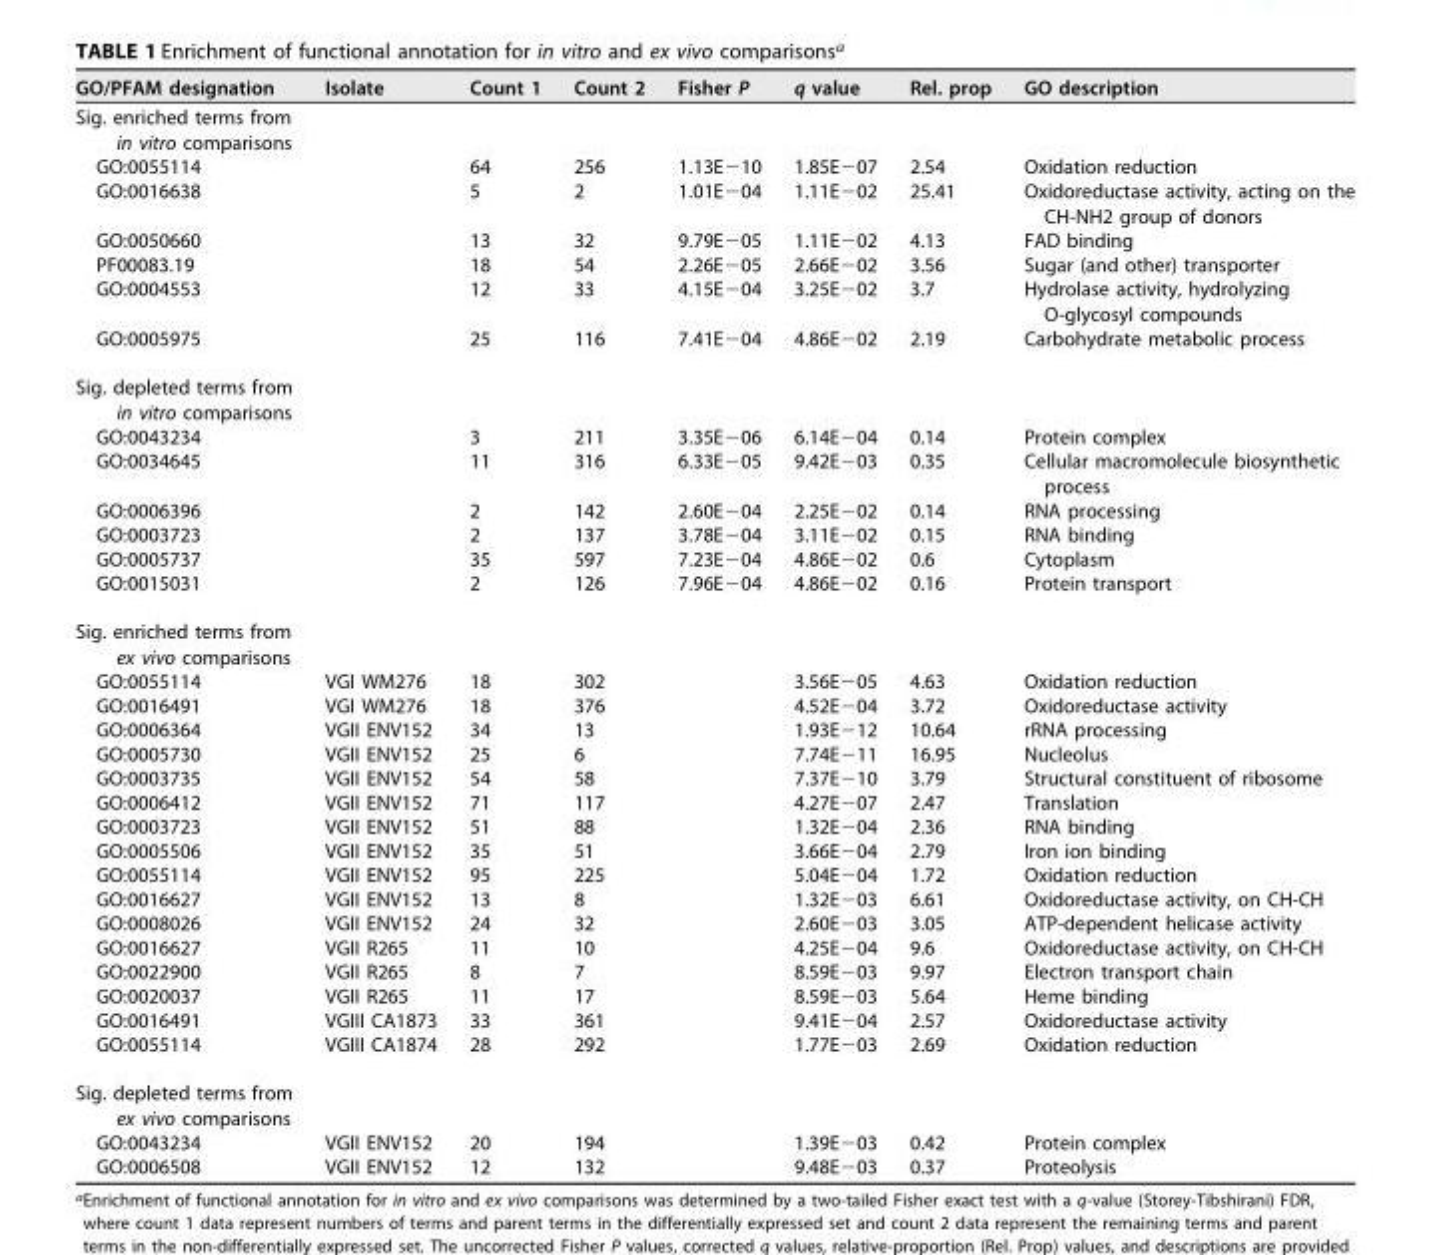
<table><thead><tr><td>GO/PFAM designation</td><td>Isolate</td><td>Count 1</td><td>Count 2</td><td>Fisher P</td><td>q value</td><td>Rel. prop</td><td>GO description</td></tr></thead><tbody><tr><td colspan="8">Sig. enriched terms from in vitro comparisons</td></tr><tr><td>GO:0055114</td><td></td><td>64</td><td>256</td><td>1.13E−10</td><td>1.85E−07</td><td>2.54</td><td>Oxidation reduction</td></tr><tr><td>GO:0016638</td><td></td><td>5</td><td>2</td><td>1.01E−04</td><td>1.11E−02</td><td>25.41</td><td>Oxidoreductase activity, acting on the CH-NH2 group of donors</td></tr><tr><td>GO:0050660</td><td></td><td>13</td><td>32</td><td>9.79E−05</td><td>1.11E−02</td><td>4.13</td><td>FAD binding</td></tr><tr><td>PF00083.19</td><td></td><td>18</td><td>54</td><td>2.26E−05</td><td>2.66E−02</td><td>3.56</td><td>Sugar (and other) transporter</td></tr><tr><td>GO:0004553</td><td></td><td>12</td><td>33</td><td>4.15E−04</td><td>3.25E−02</td><td>3.7</td><td>Hydrolase activity, hydrolyzing O-glycosyl compounds</td></tr><tr><td>GO:0005975</td><td></td><td>25</td><td>116</td><td>7.41E−04</td><td>4.86E−02</td><td>2.19</td><td>Carbohydrate metabolic process</td></tr><tr><td colspan="8">Sig. depleted terms from in vitro comparisons</td></tr><tr><td>GO:0043234</td><td></td><td>3</td><td>211</td><td>3.35E−06</td><td>6.14E−04</td><td>0.14</td><td>Protein complex</td></tr><tr><td>GO:0034645</td><td></td><td>11</td><td>316</td><td>6.33E−05</td><td>9.42E−03</td><td>0.35</td><td>Cellular macromolecule biosynthetic process</td></tr><tr><td>GO:0006396</td><td></td><td>2</td><td>142</td><td>2.60E−04</td><td>2.25E−02</td><td>0.14</td><td>RNA processing</td></tr><tr><td>GO:0003723</td><td></td><td>2</td><td>137</td><td>3.78E−04</td><td>3.11E−02</td><td>0.15</td><td>RNA binding</td></tr><tr><td>GO:0005737</td><td></td><td>35</td><td>597</td><td>7.23E−04</td><td>4.86E−02</td><td>0.6</td><td>Cytoplasm</td></tr><tr><td>GO:0015031</td><td></td><td>2</td><td>126</td><td>7.96E−04</td><td>4.86E−02</td><td>0.16</td><td>Protein transport</td></tr><tr><td colspan="8">Sig. enriched terms from ex vivo comparisons</td></tr><tr><td>GO:0055114</td><td>VGI WM276</td><td>18</td><td>302</td><td></td><td>3.56E−05</td><td>4.63</td><td>Oxidation reduction</td></tr><tr><td>GO:0016491</td><td>VGI WM276</td><td>18</td><td>376</td><td></td><td>4.52E−04</td><td>3.72</td><td>Oxidoreductase activity</td></tr><tr><td>GO:0006364</td><td>VGII ENV152</td><td>34</td><td>13</td><td></td><td>1.93E−12</td><td>10.64</td><td>rRNA processing</td></tr><tr><td>GO:0005730</td><td>VGII ENV152</td><td>25</td><td>6</td><td></td><td>7.74E−11</td><td>16.95</td><td>Nucleolus</td></tr><tr><td>GO:0003735</td><td>VGII ENV152</td><td>54</td><td>58</td><td></td><td>7.37E−10</td><td>3.79</td><td>Structural constituent of ribosome</td></tr><tr><td>GO:0006412</td><td>VGII ENV152</td><td>71</td><td>117</td><td></td><td>4.27E−07</td><td>2.47</td><td>Translation</td></tr><tr><td>GO:0003723</td><td>VGII ENV152</td><td>51</td><td>88</td><td></td><td>1.32E−04</td><td>2.36</td><td>RNA binding</td></tr><tr><td>GO:0005506</td><td>VGII ENV152</td><td>35</td><td>51</td><td></td><td>3.66E−04</td><td>2.79</td><td>Iron ion binding</td></tr><tr><td>GO:0055114</td><td>VGII ENV152</td><td>95</td><td>225</td><td></td><td>5.04E−04</td><td>1.72</td><td>Oxidation reduction</td></tr><tr><td>GO:0016627</td><td>VGII ENV152</td><td>13</td><td>8</td><td></td><td>1.32E−03</td><td>6.61</td><td>Oxidoreductase activity, on CH-CH</td></tr><tr><td>GO:0008026</td><td>VGII ENV152</td><td>24</td><td>32</td><td></td><td>2.60E−03</td><td>3.05</td><td>ATP-dependent helicase activity</td></tr><tr><td>GO:0016627</td><td>VGII R265</td><td>11</td><td>10</td><td></td><td>4.25E−04</td><td>9.6</td><td>Oxidoreductase activity, on CH-CH</td></tr><tr><td>GO:0022900</td><td>VGII R265</td><td>8</td><td>7</td><td></td><td>8.59E−03</td><td>9.97</td><td>Electron transport chain</td></tr><tr><td>GO:0020037</td><td>VGII R265</td><td>11</td><td>17</td><td></td><td>8.59E−03</td><td>5.64</td><td>Heme binding</td></tr><tr><td>GO:0016491</td><td>VGIII CA1873</td><td>33</td><td>361</td><td></td><td>9.41E−04</td><td>2.57</td><td>Oxidoreductase activity</td></tr><tr><td>GO:0055114</td><td>VGIII CA1874</td><td>28</td><td>292</td><td></td><td>1.77E−03</td><td>2.69</td><td>Oxidation reduction</td></tr><tr><td colspan="8">Sig. depleted terms from ex vivo comparisons</td></tr><tr><td>GO:0043234</td><td>VGII ENV152</td><td>20</td><td>194</td><td></td><td>1.39E−03</td><td>0.42</td><td>Protein complex</td></tr><tr><td>GO:0006508</td><td>VGII ENV152</td><td>12</td><td>132</td><td></td><td>9.48E−03</td><td>0.37</td><td>Proteolysis</td></tr></tbody></table>